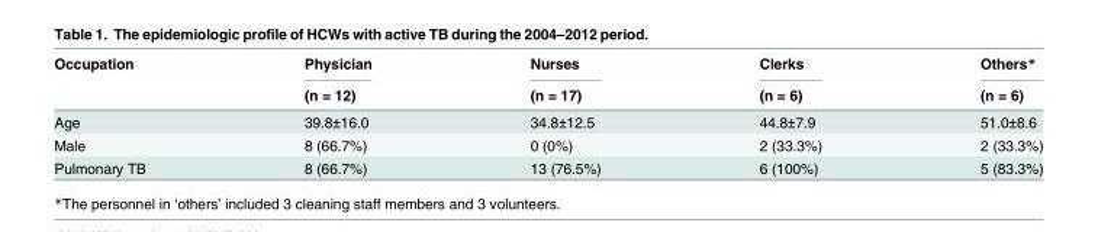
<table><thead><tr><td rowspan="2">Occupation</td><td rowspan="2">Physician (n = 12)</td><td rowspan="2">Nurses (n = 17)</td><td rowspan="2">Clerks (n = 6)</td><td rowspan="2">Others* (n = 6)</td></tr><tr></tr></thead><tbody><tr><td>Age</td><td>39.8±16.0</td><td>34.8±12.5</td><td>44.8±7.9</td><td>51.0±8.6</td></tr><tr><td>Male</td><td>8 (66.7%)</td><td>0 (0%)</td><td>2 (33.3%)</td><td>2 (33.3%)</td></tr><tr><td>Pulmonary TB</td><td>8 (66.7%)</td><td>13 (76.5%)</td><td>6 (100%)</td><td>5 (83.3%)</td></tr></tbody></table>